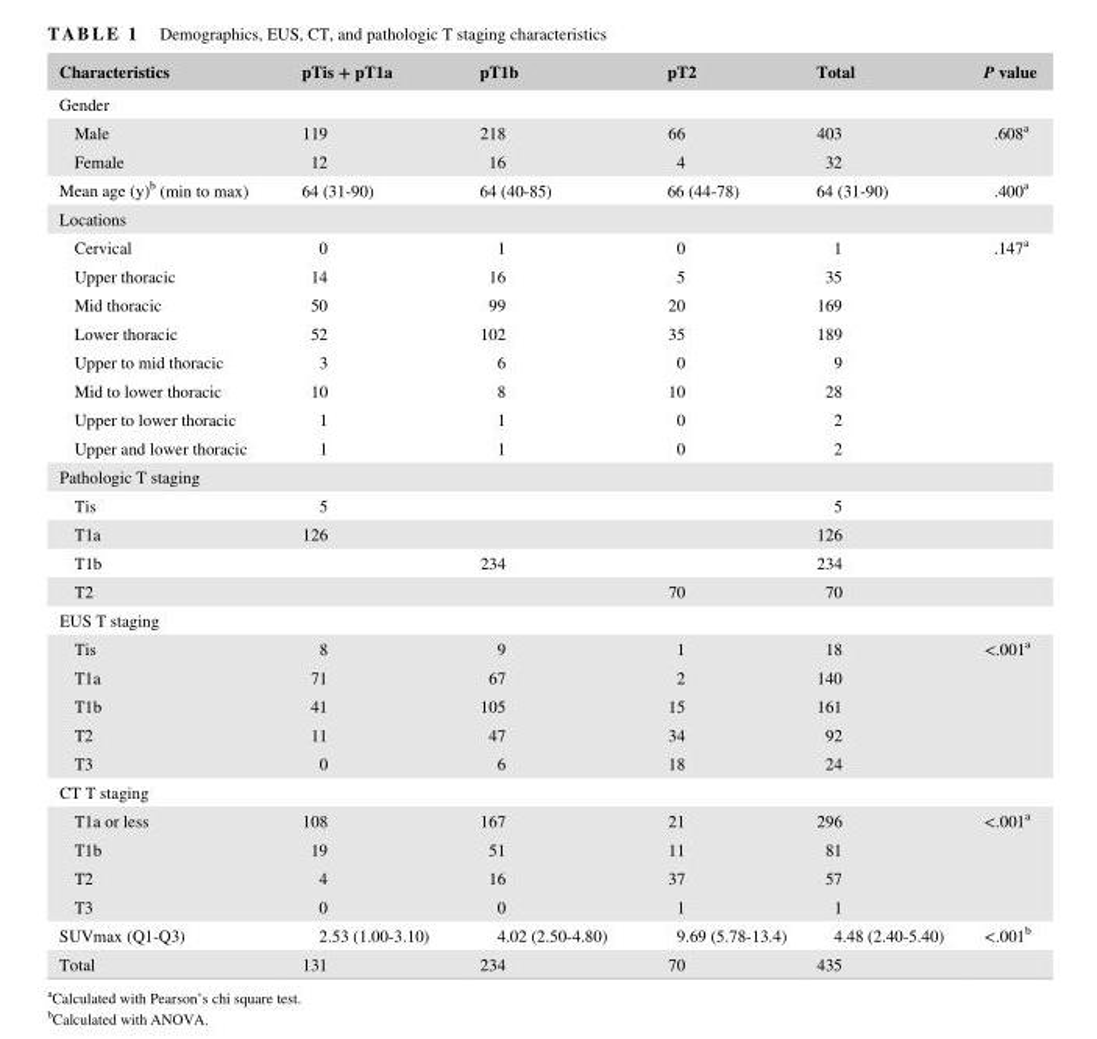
<table><thead><tr><td>Characteristics</td><td>pTis + pT1a</td><td>pT1b</td><td>pT2</td><td>Total</td><td>P value</td></tr></thead><tbody><tr><td colspan="6">Gender</td></tr><tr><td>Male</td><td>119</td><td>218</td><td>66</td><td>403</td><td rowspan="2">.608<sup>a</sup></td></tr><tr><td>Female</td><td>12</td><td>16</td><td>4</td><td>32</td></tr><tr><td>Mean age (y)<sup>b</sup> (min to max)</td><td>64 (31- 90)</td><td>64 (40- 85)</td><td>66 (44- 78)</td><td>64 (31- 90)</td><td>.400<sup>a</sup></td></tr><tr><td colspan="6">Locations</td></tr><tr><td>Cervical</td><td>0</td><td>1</td><td>0</td><td>1</td><td rowspan="8">.147<sup>a</sup></td></tr><tr><td>Upper thoracic</td><td>14</td><td>16</td><td>5</td><td>35</td></tr><tr><td>Mid thoracic</td><td>50</td><td>99</td><td>20</td><td>169</td></tr><tr><td>Lower thoracic</td><td>52</td><td>102</td><td>35</td><td>189</td></tr><tr><td>Upper to mid thoracic</td><td>3</td><td>6</td><td>0</td><td>9</td></tr><tr><td>Mid to lower thoracic</td><td>10</td><td>8</td><td>10</td><td>28</td></tr><tr><td>Upper to lower thoracic</td><td>1</td><td>1</td><td>0</td><td>2</td></tr><tr><td>Upper and lower thoracic</td><td>1</td><td>1</td><td>0</td><td>2</td></tr><tr><td colspan="6">Pathologic T staging</td></tr><tr><td>Tis</td><td>5</td><td></td><td></td><td>5</td><td></td></tr><tr><td>T1a</td><td>126</td><td></td><td></td><td>126</td><td></td></tr><tr><td>T1b</td><td></td><td>234</td><td></td><td>234</td><td></td></tr><tr><td>T2</td><td></td><td></td><td>70</td><td>70</td><td></td></tr><tr><td colspan="6">EUS T staging</td></tr><tr><td>Tis</td><td>8</td><td>9</td><td>1</td><td>18</td><td rowspan="5">&lt;.001<sup>a</sup></td></tr><tr><td>T1a</td><td>71</td><td>67</td><td>2</td><td>140</td></tr><tr><td>T1b</td><td>41</td><td>105</td><td>15</td><td>161</td></tr><tr><td>T2</td><td>11</td><td>47</td><td>34</td><td>92</td></tr><tr><td>T3</td><td>0</td><td>6</td><td>18</td><td>24</td></tr><tr><td colspan="6">CT T staging</td></tr><tr><td>T1a or less</td><td>108</td><td>167</td><td>21</td><td>296</td><td rowspan="4">&lt;.001<sup>a</sup></td></tr><tr><td>T1b</td><td>19</td><td>51</td><td>11</td><td>81</td></tr><tr><td>T2</td><td>4</td><td>16</td><td>37</td><td>57</td></tr><tr><td>T3</td><td>0</td><td>0</td><td>1</td><td>1</td></tr><tr><td>SUVmax (Q1- Q3)</td><td>2.53 (1.00- 3.10)</td><td>4.02 (2.50- 4.80)</td><td>9.69 (5.78- 13.4)</td><td>4.48 (2.40- 5.40)</td><td>&lt;.001<sup>b</sup></td></tr><tr><td>Total</td><td>131</td><td>234</td><td>70</td><td>435</td><td></td></tr></tbody></table>